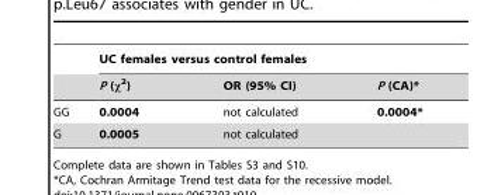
<table><thead><tr><td rowspan="2"></td><td colspan="3">UC females versus control females</td></tr><tr><td>P (χ<sup>2</sup>)</td><td>OR (95% CI)</td><td>P (CA)*</td></tr></thead><tbody><tr><td>GG</td><td>0.0004</td><td>not calculated</td><td>0.0004*</td></tr><tr><td>G</td><td>0.0005</td><td>not calculated</td><td></td></tr></tbody></table>